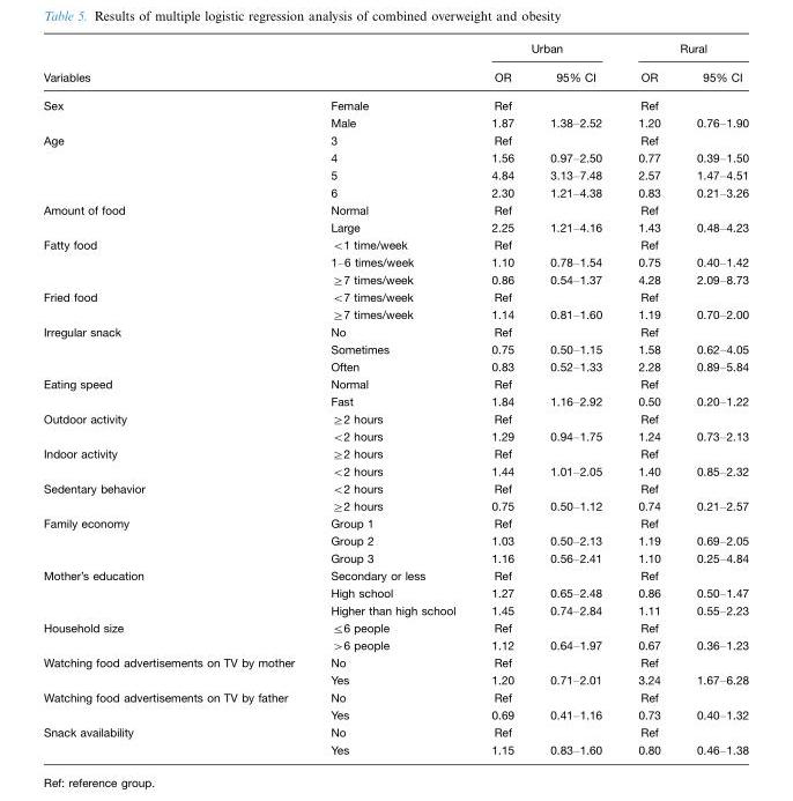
<table><thead><tr><td rowspan="2">Variables</td><td rowspan="2"></td><td colspan="2">Urban</td><td colspan="2">Rural</td></tr><tr><td>OR</td><td>95% CI</td><td>OR</td><td>95% CI</td></tr></thead><tbody><tr><td rowspan="2">Sex</td><td>Female</td><td>Ref</td><td></td><td>Ref</td><td></td></tr><tr><td>Male</td><td>1.87</td><td>1.38–2.52</td><td>1.20</td><td>0.76–1.90</td></tr><tr><td rowspan="4">Age</td><td>3</td><td>Ref</td><td></td><td>Ref</td><td></td></tr><tr><td>4</td><td>1.56</td><td>0.97–2.50</td><td>0.77</td><td>0.39–1.50</td></tr><tr><td>5</td><td>4.84</td><td>3.13–7.48</td><td>2.57</td><td>1.47–4.51</td></tr><tr><td>6</td><td>2.30</td><td>1.21–4.38</td><td>0.83</td><td>0.21–3.26</td></tr><tr><td rowspan="2">Amount of food</td><td>Normal</td><td>Ref</td><td></td><td>Ref</td><td></td></tr><tr><td>Large</td><td>2.25</td><td>1.21–4.16</td><td>1.43</td><td>0.48–4.23</td></tr><tr><td rowspan="3">Fatty food</td><td>&lt;1 time/week</td><td>Ref</td><td></td><td>Ref</td><td></td></tr><tr><td>1–6 times/week</td><td>1.10</td><td>0.78–1.54</td><td>0.75</td><td>0.40–1.42</td></tr><tr><td>≥7 times/week</td><td>0.86</td><td>0.54–1.37</td><td>4.28</td><td>2.09–8.73</td></tr><tr><td rowspan="2">Fried food</td><td>&lt;7 times/week</td><td>Ref</td><td></td><td>Ref</td><td></td></tr><tr><td>≥7 times/week</td><td>1.14</td><td>0.81–1.60</td><td>1.19</td><td>0.70–2.00</td></tr><tr><td rowspan="3">Irregular snack</td><td>No</td><td>Ref</td><td></td><td>Ref</td><td></td></tr><tr><td>Sometimes</td><td>0.75</td><td>0.50–1.15</td><td>1.58</td><td>0.62–4.05</td></tr><tr><td>Often</td><td>0.83</td><td>0.52–1.33</td><td>2.28</td><td>0.89–5.84</td></tr><tr><td rowspan="2">Eating speed</td><td>Normal</td><td>Ref</td><td></td><td>Ref</td><td></td></tr><tr><td>Fast</td><td>1.84</td><td>1.16–2.92</td><td>0.50</td><td>0.20–1.22</td></tr><tr><td rowspan="2">Outdoor activity</td><td>≥2 hours</td><td>Ref</td><td></td><td>Ref</td><td></td></tr><tr><td>&lt;2 hours</td><td>1.29</td><td>0.94–1.75</td><td>1.24</td><td>0.73–2.13</td></tr><tr><td rowspan="2">Indoor activity</td><td>≥2 hours</td><td>Ref</td><td></td><td>Ref</td><td></td></tr><tr><td>&lt;2 hours</td><td>1.44</td><td>1.01–2.05</td><td>1.40</td><td>0.85–2.32</td></tr><tr><td rowspan="2">Sedentary behavior</td><td>&lt;2 hours</td><td>Ref</td><td></td><td>Ref</td><td></td></tr><tr><td>≥2 hours</td><td>0.75</td><td>0.50–1.12</td><td>0.74</td><td>0.21–2.57</td></tr><tr><td rowspan="3">Family economy</td><td>Group 1</td><td>Ref</td><td></td><td>Ref</td><td></td></tr><tr><td>Group 2</td><td>1.03</td><td>0.50–2.13</td><td>1.19</td><td>0.69–2.05</td></tr><tr><td>Group 3</td><td>1.16</td><td>0.56–2.41</td><td>1.10</td><td>0.25–4.84</td></tr><tr><td rowspan="3">Mother’s education</td><td>Secondary or less</td><td>Ref</td><td></td><td>Ref</td><td></td></tr><tr><td>High school</td><td>1.27</td><td>0.65–2.48</td><td>0.86</td><td>0.50–1.47</td></tr><tr><td>Higher than high school</td><td>1.45</td><td>0.74–2.84</td><td>1.11</td><td>0.55–2.23</td></tr><tr><td rowspan="2">Household size</td><td>≤6 people</td><td>Ref</td><td></td><td>Ref</td><td></td></tr><tr><td>&gt;6 people</td><td>1.12</td><td>0.64–1.97</td><td>0.67</td><td>0.36–1.23</td></tr><tr><td rowspan="2">Watching food advertisements on TV by mother</td><td>No</td><td>Ref</td><td></td><td>Ref</td><td></td></tr><tr><td>Yes</td><td>1.20</td><td>0.71–2.01</td><td>3.24</td><td>1.67–6.28</td></tr><tr><td rowspan="2">Watching food advertisements on TV by father</td><td>No</td><td>Ref</td><td></td><td>Ref</td><td></td></tr><tr><td>Yes</td><td>0.69</td><td>0.41–1.16</td><td>0.73</td><td>0.40–1.32</td></tr><tr><td rowspan="2">Snack availability</td><td>No</td><td>Ref</td><td></td><td>Ref</td><td></td></tr><tr><td>Yes</td><td>1.15</td><td>0.83–1.60</td><td>0.80</td><td>0.46–1.38</td></tr></tbody></table>